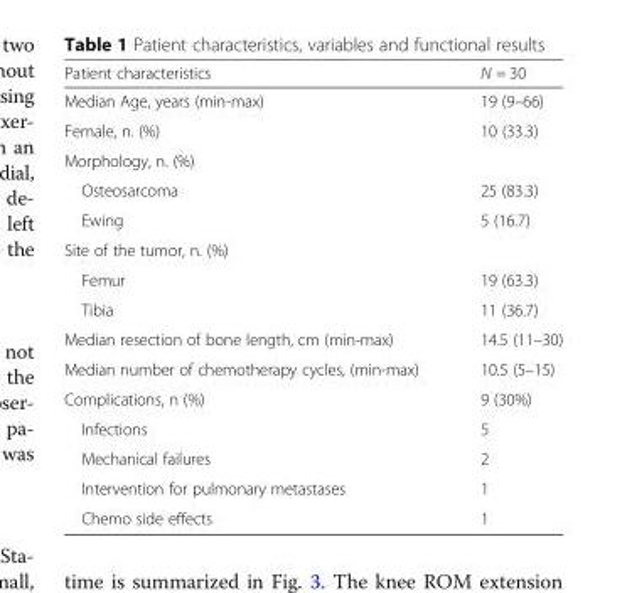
<table><thead><tr><td>Patient characteristics</td><td>N = 30</td></tr></thead><tbody><tr><td>Median Age, years (min-max)</td><td>19 (9–66)</td></tr><tr><td>Female, n. (%)</td><td>10 (33.3)</td></tr><tr><td colspan="2">Morphology, n. (%)</td></tr><tr><td>Osteosarcoma</td><td>25 (83.3)</td></tr><tr><td>Ewing</td><td>5 (16.7)</td></tr><tr><td colspan="2">Site of the tumor, n. (%)</td></tr><tr><td>Femur</td><td>19 (63.3)</td></tr><tr><td>Tibia</td><td>11 (36.7)</td></tr><tr><td>Median resection of bone length, cm (min-max)</td><td>14.5 (11–30)</td></tr><tr><td>Median number of chemotherapy cycles, (min-max)</td><td>10.5 (5–15)</td></tr><tr><td>Complications, n (%)</td><td>9 (30%)</td></tr><tr><td>Infections</td><td>5</td></tr><tr><td>Mechanical failures</td><td>2</td></tr><tr><td>Intervention for pulmonary metastases</td><td>1</td></tr><tr><td>Chemo side effects</td><td>1</td></tr></tbody></table>